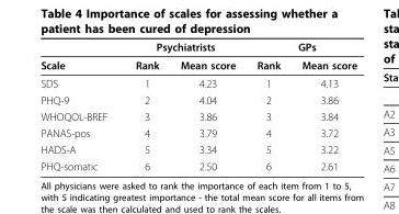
<table><thead><tr><td rowspan="2">Scale</td><td colspan="2">Psychiatrists</td><td colspan="2">GPs</td></tr><tr><td>Rank</td><td>Mean score</td><td>Rank</td><td>Mean score</td></tr></thead><tbody><tr><td>SDS</td><td>1</td><td>4.23</td><td>1</td><td>4.13</td></tr><tr><td>PHQ-9</td><td>2</td><td>4.04</td><td>2</td><td>3.86</td></tr><tr><td>WHOQOL-BREF</td><td>3</td><td>3.86</td><td>3</td><td>3.84</td></tr><tr><td>PANAS-pos</td><td>4</td><td>3.79</td><td>4</td><td>3.72</td></tr><tr><td>HADS-A</td><td>5</td><td>3.34</td><td>5</td><td>3.22</td></tr><tr><td>PHQ-somatic</td><td>6</td><td>2.50</td><td>6</td><td>2.61</td></tr></tbody></table>